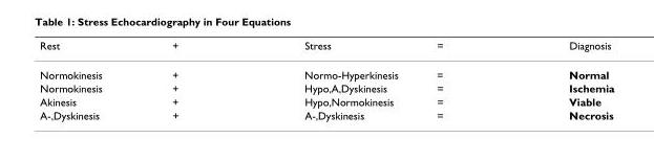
<table><thead><tr><td>Rest</td><td>+</td><td>Stress</td><td>=</td><td>Diagnosis</td></tr></thead><tbody><tr><td>Normokinesis</td><td>+</td><td>Normo-Hyperkinesis</td><td>=</td><td>Normal</td></tr><tr><td>Normokinesis</td><td>+</td><td>Hypo,A,Dyskinesis</td><td>=</td><td>Ischemia</td></tr><tr><td>Akinesis</td><td>+</td><td>Hypo,Normokinesis</td><td>=</td><td>Viable</td></tr><tr><td>A-,Dyskinesis</td><td>+</td><td>A-,Dyskinesis</td><td>=</td><td>Necrosis</td></tr></tbody></table>